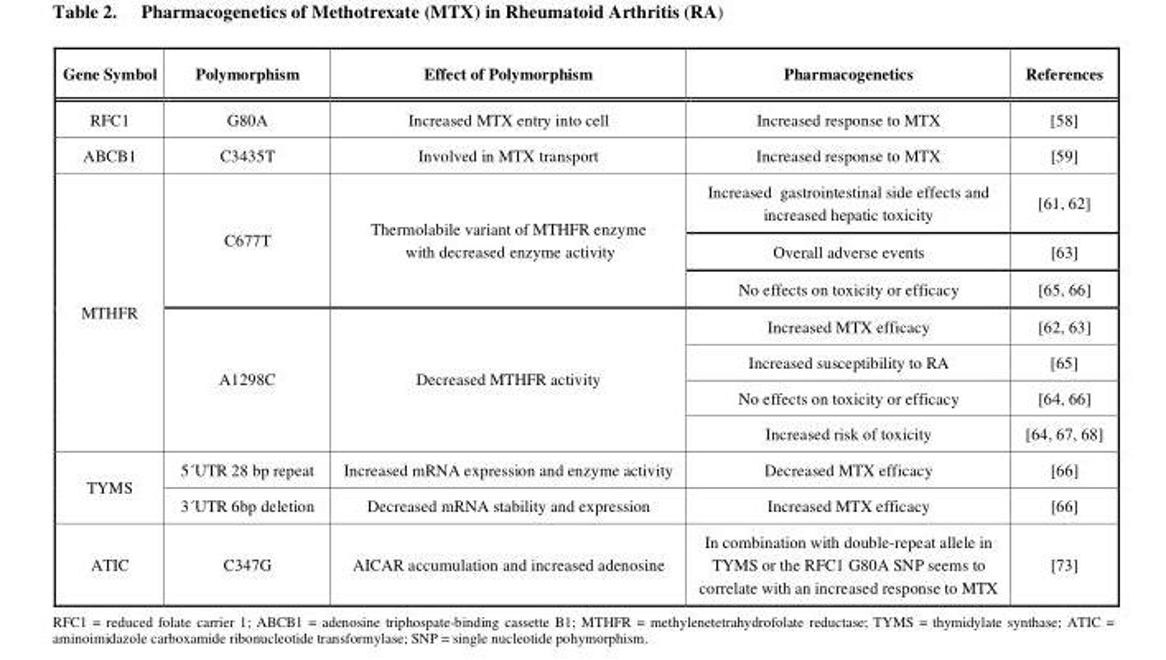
<table><thead><tr><td>Gene Symbol</td><td>Polymorphism</td><td>Effect of Polymorphism</td><td>Pharmacogenetics</td><td>References</td></tr></thead><tbody><tr><td>RFC1</td><td>G80A</td><td>Increased MTX entry into cell</td><td>Increased response to MTX</td><td>[58]</td></tr><tr><td>ABCB1</td><td>C3435T</td><td>Involved in MTX transport</td><td>Increased response to MTX</td><td>[59]</td></tr><tr><td rowspan="7">MTHFR</td><td rowspan="3">C677T</td><td rowspan="3">Thermolabile variant of MTHFR enzyme with decreased enzyme activity</td><td>Increased gastrointestinal side effects and increased hepatic toxicity</td><td>[61, 62]</td></tr><tr><td>Overall adverse events</td><td>[63]</td></tr><tr><td>No effects on toxicity or efficacy</td><td>[65, 66]</td></tr><tr><td rowspan="4">A1298C</td><td rowspan="4">Decreased MTHFR activity</td><td>Increased MTX efficacy</td><td>[62, 63]</td></tr><tr><td>Increased susceptibility to RA</td><td>[65]</td></tr><tr><td>No effects on toxicity or efficacy</td><td>[64, 66]</td></tr><tr><td>Increased risk of toxicity</td><td>[64, 67, 68]</td></tr><tr><td rowspan="2">TYMS</td><td>5´UTR 28 bp repeat</td><td>Increased mRNA expression and enzyme activity</td><td>Decreased MTX efficacy</td><td>[66]</td></tr><tr><td>3´UTR 6bp deletion</td><td>Decreased mRNA stability and expression</td><td>Increased MTX efficacy</td><td>[66]</td></tr><tr><td>ATIC</td><td>C347G</td><td>AICAR accumulation and increased adenosine</td><td>In combination with double-repeat allele in TYMS or the RFC1 G80A SNP seems to correlate with an increased response to MTX</td><td>[73]</td></tr></tbody></table>